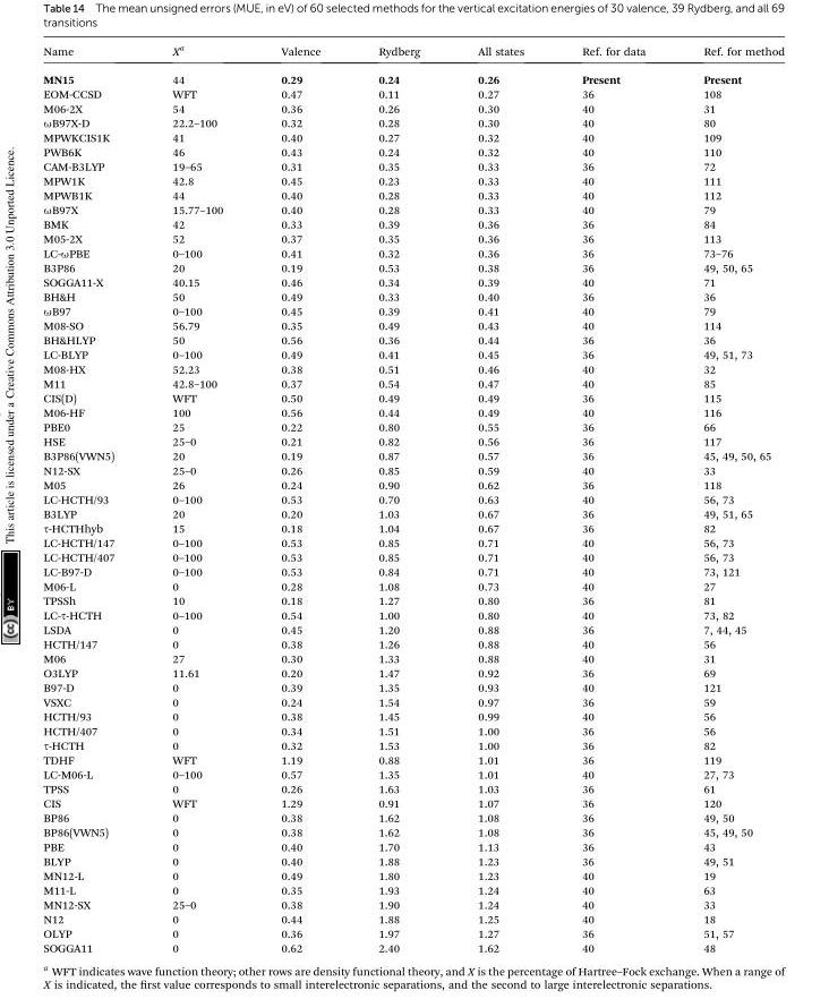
<table><thead><tr><td>Name</td><td>X<sup>a</sup></td><td>Valence</td><td>Rydberg</td><td>All states</td><td>Ref. for data</td><td>Ref. for method</td></tr></thead><tbody><tr><td>MN15</td><td>44</td><td>0.29</td><td>0.24</td><td>0.26</td><td>Present</td><td>Present</td></tr><tr><td>EOM-CCSD</td><td>WFT</td><td>0.47</td><td>0.11</td><td>0.27</td><td>36</td><td>108</td></tr><tr><td>M06-2X</td><td>54</td><td>0.36</td><td>0.26</td><td>0.30</td><td>40</td><td>31</td></tr><tr><td>ωB97X-D</td><td>22.2–100</td><td>0.32</td><td>0.28</td><td>0.30</td><td>40</td><td>80</td></tr><tr><td>MPWKCIS1K</td><td>41</td><td>0.40</td><td>0.27</td><td>0.32</td><td>40</td><td>109</td></tr><tr><td>PWB6K</td><td>46</td><td>0.43</td><td>0.24</td><td>0.32</td><td>40</td><td>110</td></tr><tr><td>CAM-B3LYP</td><td>19–65</td><td>0.31</td><td>0.35</td><td>0.33</td><td>36</td><td>72</td></tr><tr><td>MPW1K</td><td>42.8</td><td>0.45</td><td>0.23</td><td>0.33</td><td>40</td><td>111</td></tr><tr><td>MPWB1K</td><td>44</td><td>0.40</td><td>0.28</td><td>0.33</td><td>40</td><td>112</td></tr><tr><td>ωB97X</td><td>15.77–100</td><td>0.40</td><td>0.28</td><td>0.33</td><td>40</td><td>79</td></tr><tr><td>BMK</td><td>42</td><td>0.33</td><td>0.39</td><td>0.36</td><td>36</td><td>84</td></tr><tr><td>M05-2X</td><td>52</td><td>0.37</td><td>0.35</td><td>0.36</td><td>36</td><td>113</td></tr><tr><td>LC-ωPBE</td><td>0–100</td><td>0.41</td><td>0.32</td><td>0.36</td><td>36</td><td>73–76</td></tr><tr><td>B3P86</td><td>20</td><td>0.19</td><td>0.53</td><td>0.38</td><td>36</td><td>49, 50, 65</td></tr><tr><td>SOGGA11-X</td><td>40.15</td><td>0.46</td><td>0.34</td><td>0.39</td><td>40</td><td>71</td></tr><tr><td>BH&amp;H</td><td>50</td><td>0.49</td><td>0.33</td><td>0.40</td><td>36</td><td>36</td></tr><tr><td>ωB97</td><td>0–100</td><td>0.45</td><td>0.39</td><td>0.41</td><td>40</td><td>79</td></tr><tr><td>M08-SO</td><td>56.79</td><td>0.35</td><td>0.49</td><td>0.43</td><td>40</td><td>114</td></tr><tr><td>BH&amp;HLYP</td><td>50</td><td>0.56</td><td>0.36</td><td>0.44</td><td>36</td><td>36</td></tr><tr><td>LC-BLYP</td><td>0–100</td><td>0.49</td><td>0.41</td><td>0.45</td><td>36</td><td>49, 51, 73</td></tr><tr><td>M08-HX</td><td>52.23</td><td>0.38</td><td>0.51</td><td>0.46</td><td>40</td><td>32</td></tr><tr><td>M11</td><td>42.8–100</td><td>0.37</td><td>0.54</td><td>0.47</td><td>40</td><td>85</td></tr><tr><td>CIS(D)</td><td>WFT</td><td>0.50</td><td>0.49</td><td>0.49</td><td>36</td><td>115</td></tr><tr><td>M06-HF</td><td>100</td><td>0.56</td><td>0.44</td><td>0.49</td><td>40</td><td>116</td></tr><tr><td>PBE0</td><td>25</td><td>0.22</td><td>0.80</td><td>0.55</td><td>36</td><td>66</td></tr><tr><td>HSE</td><td>25–0</td><td>0.21</td><td>0.82</td><td>0.56</td><td>36</td><td>117</td></tr><tr><td>B3P86(VWN5)</td><td>20</td><td>0.19</td><td>0.87</td><td>0.57</td><td>36</td><td>45, 49, 50, 65</td></tr><tr><td>N12-SX</td><td>25–0</td><td>0.26</td><td>0.85</td><td>0.59</td><td>40</td><td>33</td></tr><tr><td>M05</td><td>26</td><td>0.24</td><td>0.90</td><td>0.62</td><td>36</td><td>118</td></tr><tr><td>LC-HCTH/93</td><td>0–100</td><td>0.53</td><td>0.70</td><td>0.63</td><td>40</td><td>56, 73</td></tr><tr><td>B3LYP</td><td>20</td><td>0.20</td><td>1.03</td><td>0.67</td><td>36</td><td>49, 51, 65</td></tr><tr><td>τ-HCTHhyb</td><td>15</td><td>0.18</td><td>1.04</td><td>0.67</td><td>36</td><td>82</td></tr><tr><td>LC-HCTH/147</td><td>0–100</td><td>0.53</td><td>0.85</td><td>0.71</td><td>40</td><td>56, 73</td></tr><tr><td>LC-HCTH/407</td><td>0–100</td><td>0.53</td><td>0.85</td><td>0.71</td><td>40</td><td>56, 73</td></tr><tr><td>LC-B97-D</td><td>0–100</td><td>0.53</td><td>0.84</td><td>0.71</td><td>40</td><td>73, 121</td></tr><tr><td>M06-L</td><td>0</td><td>0.28</td><td>1.08</td><td>0.73</td><td>40</td><td>27</td></tr><tr><td>TPSSh</td><td>10</td><td>0.18</td><td>1.27</td><td>0.80</td><td>36</td><td>81</td></tr><tr><td>LC-τ-HCTH</td><td>0–100</td><td>0.54</td><td>1.00</td><td>0.80</td><td>40</td><td>73, 82</td></tr><tr><td>LSDA</td><td>0</td><td>0.45</td><td>1.20</td><td>0.88</td><td>36</td><td>7, 44, 45</td></tr><tr><td>HCTH/147</td><td>0</td><td>0.38</td><td>1.26</td><td>0.88</td><td>40</td><td>56</td></tr><tr><td>M06</td><td>27</td><td>0.30</td><td>1.33</td><td>0.88</td><td>40</td><td>31</td></tr><tr><td>O3LYP</td><td>11.61</td><td>0.20</td><td>1.47</td><td>0.92</td><td>36</td><td>69</td></tr><tr><td>B97-D</td><td>0</td><td>0.39</td><td>1.35</td><td>0.93</td><td>40</td><td>121</td></tr><tr><td>VSXC</td><td>0</td><td>0.24</td><td>1.54</td><td>0.97</td><td>36</td><td>59</td></tr><tr><td>HCTH/93</td><td>0</td><td>0.38</td><td>1.45</td><td>0.99</td><td>40</td><td>56</td></tr><tr><td>HCTH/407</td><td>0</td><td>0.34</td><td>1.51</td><td>1.00</td><td>36</td><td>56</td></tr><tr><td>τ-HCTH</td><td>0</td><td>0.32</td><td>1.53</td><td>1.00</td><td>36</td><td>82</td></tr><tr><td>TDHF</td><td>WFT</td><td>1.19</td><td>0.88</td><td>1.01</td><td>36</td><td>119</td></tr><tr><td>LC-M06-L</td><td>0–100</td><td>0.57</td><td>1.35</td><td>1.01</td><td>40</td><td>27, 73</td></tr><tr><td>TPSS</td><td>0</td><td>0.26</td><td>1.63</td><td>1.03</td><td>36</td><td>61</td></tr><tr><td>CIS</td><td>WFT</td><td>1.29</td><td>0.91</td><td>1.07</td><td>36</td><td>120</td></tr><tr><td>BP86</td><td>0</td><td>0.38</td><td>1.62</td><td>1.08</td><td>36</td><td>49, 50</td></tr><tr><td>BP86(VWN5)</td><td>0</td><td>0.38</td><td>1.62</td><td>1.08</td><td>36</td><td>45, 49, 50</td></tr><tr><td>PBE</td><td>0</td><td>0.40</td><td>1.70</td><td>1.13</td><td>36</td><td>43</td></tr><tr><td>BLYP</td><td>0</td><td>0.40</td><td>1.88</td><td>1.23</td><td>36</td><td>49, 51</td></tr><tr><td>MN12-L</td><td>0</td><td>0.49</td><td>1.80</td><td>1.23</td><td>40</td><td>19</td></tr><tr><td>M11-L</td><td>0</td><td>0.35</td><td>1.93</td><td>1.24</td><td>40</td><td>63</td></tr><tr><td>MN12-SX</td><td>25–0</td><td>0.38</td><td>1.90</td><td>1.24</td><td>40</td><td>33</td></tr><tr><td>N12</td><td>0</td><td>0.44</td><td>1.88</td><td>1.25</td><td>40</td><td>18</td></tr><tr><td>OLYP</td><td>0</td><td>0.36</td><td>1.97</td><td>1.27</td><td>36</td><td>51, 57</td></tr><tr><td>SOGGA11</td><td>0</td><td>0.62</td><td>2.40</td><td>1.62</td><td>40</td><td>48</td></tr></tbody></table>